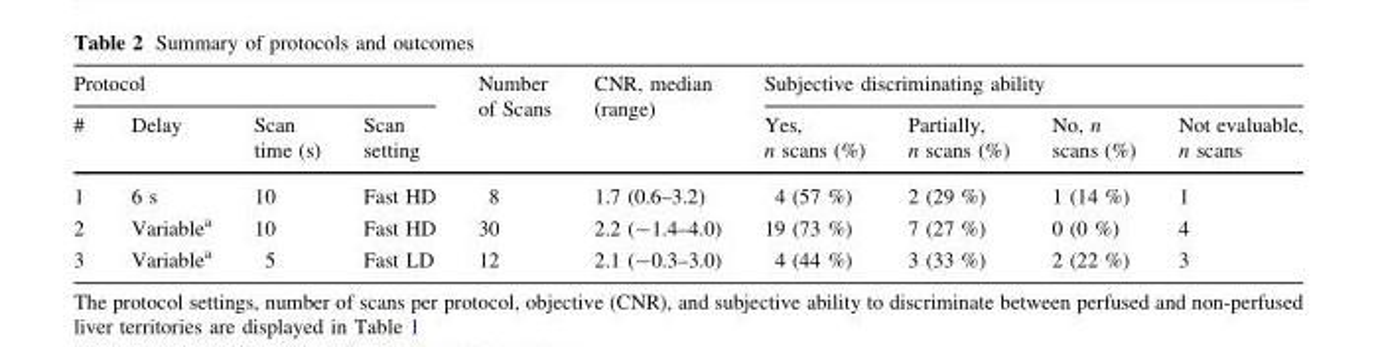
<table><thead><tr><td colspan="4">Protocol</td><td rowspan="2">Number of Scans</td><td rowspan="2">CNR, median (range)</td><td colspan="4">Subjective discriminating ability</td></tr><tr><td>#</td><td>Delay</td><td>Scan time (s)</td><td>Scan setting</td><td>Yes, n scans (%)</td><td>Partially, n scans (%)</td><td>No, n scans (%)</td><td>Not evaluable, n scans</td></tr></thead><tbody><tr><td>1</td><td>6 s</td><td>10</td><td>Fast HD</td><td>8</td><td>1.7 (0.6–3.2)</td><td>4 (57 %)</td><td>2 (29 %)</td><td>1 (14 %)</td><td>1</td></tr><tr><td>2</td><td>Variable<sup>a</sup></td><td>10</td><td>Fast HD</td><td>30</td><td>2.2 (-1.4–4.0)</td><td>19 (73 %)</td><td>7 (27 %)</td><td>0 (0 %)</td><td>4</td></tr><tr><td>3</td><td>Variable<sup>a</sup></td><td>5</td><td>Fast LD</td><td>12</td><td>2.1 (-0.3–3.0)</td><td>4 (44 %)</td><td>3 (33 %)</td><td>2 (22 %)</td><td>3</td></tr></tbody></table>